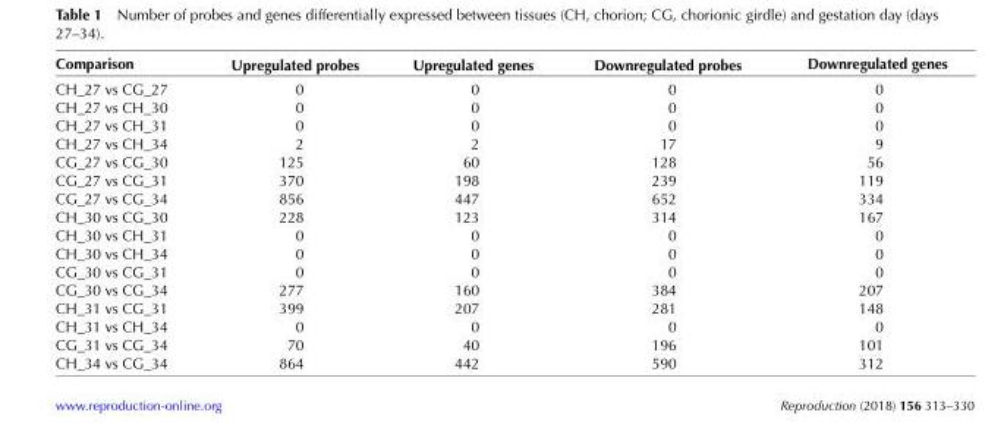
<table><thead><tr><td>Comparison</td><td>Upregulated probes</td><td>Upregulated genes</td><td>Downregulated probes</td><td>Downregulated genes</td></tr></thead><tbody><tr><td>CH_27 vs CG_27</td><td>0</td><td>0</td><td>0</td><td>0</td></tr><tr><td>CH_27 vs CH_30</td><td>0</td><td>0</td><td>0</td><td>0</td></tr><tr><td>CH_27 vs CH_31</td><td>0</td><td>0</td><td>0</td><td>0</td></tr><tr><td>CH_27 vs CH_34</td><td>2</td><td>2</td><td>17</td><td>9</td></tr><tr><td>CG_27 vs CG_30</td><td>125</td><td>60</td><td>128</td><td>56</td></tr><tr><td>CG_27 vs CG_31</td><td>370</td><td>198</td><td>239</td><td>119</td></tr><tr><td>CG_27 vs CG_34</td><td>856</td><td>447</td><td>652</td><td>334</td></tr><tr><td>CH_30 vs CG_30</td><td>228</td><td>123</td><td>314</td><td>167</td></tr><tr><td>CH_30 vs CH_31</td><td>0</td><td>0</td><td>0</td><td>0</td></tr><tr><td>CH_30 vs CH_34</td><td>0</td><td>0</td><td>0</td><td>0</td></tr><tr><td>CG_30 vs CG_31</td><td>0</td><td>0</td><td>0</td><td>0</td></tr><tr><td>CG_30 vs CG_34</td><td>277</td><td>160</td><td>384</td><td>207</td></tr><tr><td>CH_31 vs CG_31</td><td>399</td><td>207</td><td>281</td><td>148</td></tr><tr><td>CH_31 vs CH_34</td><td>0</td><td>0</td><td>0</td><td>0</td></tr><tr><td>CG_31 vs CG_34</td><td>70</td><td>40</td><td>196</td><td>101</td></tr><tr><td>CH_34 vs CG_34</td><td>864</td><td>442</td><td>590</td><td>312</td></tr></tbody></table>